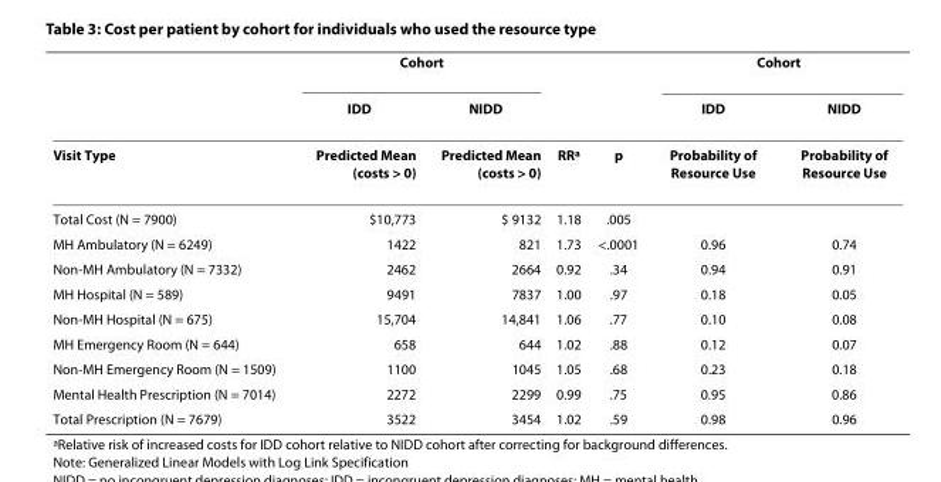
<table><thead><tr><td rowspan="2"></td><td colspan="2">Cohort</td><td rowspan="2"></td><td rowspan="2"></td><td colspan="2">Cohort</td></tr><tr><td>IDD</td><td>NIDD</td><td>IDD</td><td>NIDD</td></tr></thead><tbody><tr><td>Visit Type</td><td>Predicted Mean (costs &gt; 0)</td><td>Predicted Mean (costs &gt; 0)</td><td>RR<sup>a</sup></td><td>p</td><td>Probability of Resource Use</td><td>Probability of Resource Use</td></tr><tr><td>Total Cost (N = 7900)</td><td>$10,773</td><td>$ 9132</td><td>1.18</td><td>.005</td><td></td><td></td></tr><tr><td>MH Ambulatory (N = 6249)</td><td>1422</td><td>821</td><td>1.73</td><td>&lt;.0001</td><td>0.96</td><td>0.74</td></tr><tr><td>Non-MH Ambulatory (N = 7332)</td><td>2462</td><td>2664</td><td>0.92</td><td>.34</td><td>0.94</td><td>0.91</td></tr><tr><td>MH Hospital (N = 589)</td><td>9491</td><td>7837</td><td>1.00</td><td>.97</td><td>0.18</td><td>0.05</td></tr><tr><td>Non-MH Hospital (N = 675)</td><td>15,704</td><td>14,841</td><td>1.06</td><td>.77</td><td>0.10</td><td>0.08</td></tr><tr><td>MH Emergency Room (N = 644)</td><td>658</td><td>644</td><td>1.02</td><td>.88</td><td>0.12</td><td>0.07</td></tr><tr><td>Non-MH Emergency Room (N = 1509)</td><td>1100</td><td>1045</td><td>1.05</td><td>.68</td><td>0.23</td><td>0.18</td></tr><tr><td>Mental Health Prescription (N = 7014)</td><td>2272</td><td>2299</td><td>0.99</td><td>.75</td><td>0.95</td><td>0.86</td></tr><tr><td>Total Prescription (N = 7679)</td><td>3522</td><td>3454</td><td>1.02</td><td>.59</td><td>0.98</td><td>0.96</td></tr></tbody></table>